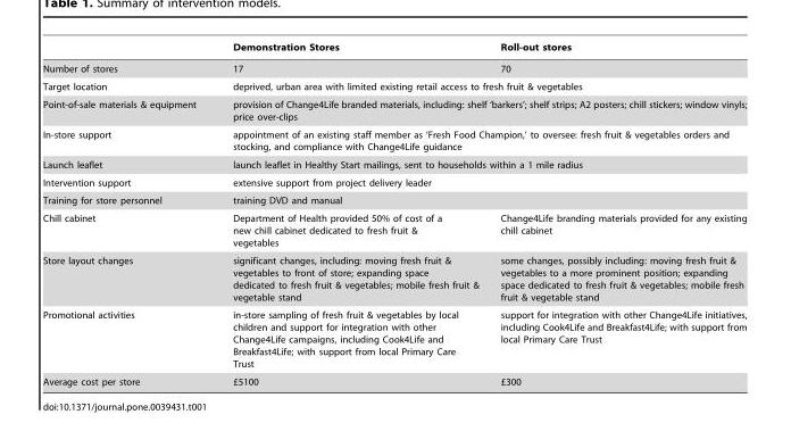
<table><thead><tr><td></td><td>Demonstration Stores</td><td>Roll-out stores</td></tr></thead><tbody><tr><td>Number of stores</td><td>17</td><td>70</td></tr><tr><td>Target location</td><td colspan="2">deprived, urban area with limited existing retail access to fresh fruit &amp; vegetables</td></tr><tr><td>Point-of-sale materials &amp; equipment</td><td colspan="2">provision of Change4Life branded materials, including: shelf ‘barkers’; shelf strips; A2 posters; chill stickers; window vinyls; price over-clips</td></tr><tr><td>In-store support</td><td colspan="2">appointment of an existing staff member as ‘Fresh Food Champion,’ to oversee: fresh fruit &amp; vegetables orders and stocking, and compliance with Change4Life guidance</td></tr><tr><td>Launch leaflet</td><td colspan="2">launch leaflet in Healthy Start mailings, sent to households within a 1 mile radius</td></tr><tr><td>Intervention support</td><td colspan="2">extensive support from project delivery leader</td></tr><tr><td>Training for store personnel</td><td colspan="2">training DVD and manual</td></tr><tr><td>Chill cabinet</td><td>Department of Health provided 50% of cost of a new chill cabinet dedicated to fresh fruit &amp; vegetables</td><td>Change4Life branding materials provided for any existing chill cabinet</td></tr><tr><td>Store layout changes</td><td>significant changes, including: moving fresh fruit &amp; vegetables to front of store; expanding space dedicated to fresh fruit &amp; vegetables; mobile fresh fruit &amp; vegetable stand</td><td>some changes, possibly including: moving fresh fruit &amp; vegetables to a more prominent position; expanding space dedicated to fresh fruit &amp; vegetables; mobile fresh fruit &amp; vegetable stand</td></tr><tr><td>Promotional activities</td><td>in-store sampling of fresh fruit &amp; vegetables by local children and support for integration with other Change4Life campaigns, including Cook4Life and Breakfast4Life; with support from local Primary Care Trust</td><td>support for integration with other Change4Life initiatives, including Cook4Life and Breakfast4Life; with support from local Primary Care Trust</td></tr><tr><td>Average cost per store</td><td>£5100</td><td>£300</td></tr></tbody></table>